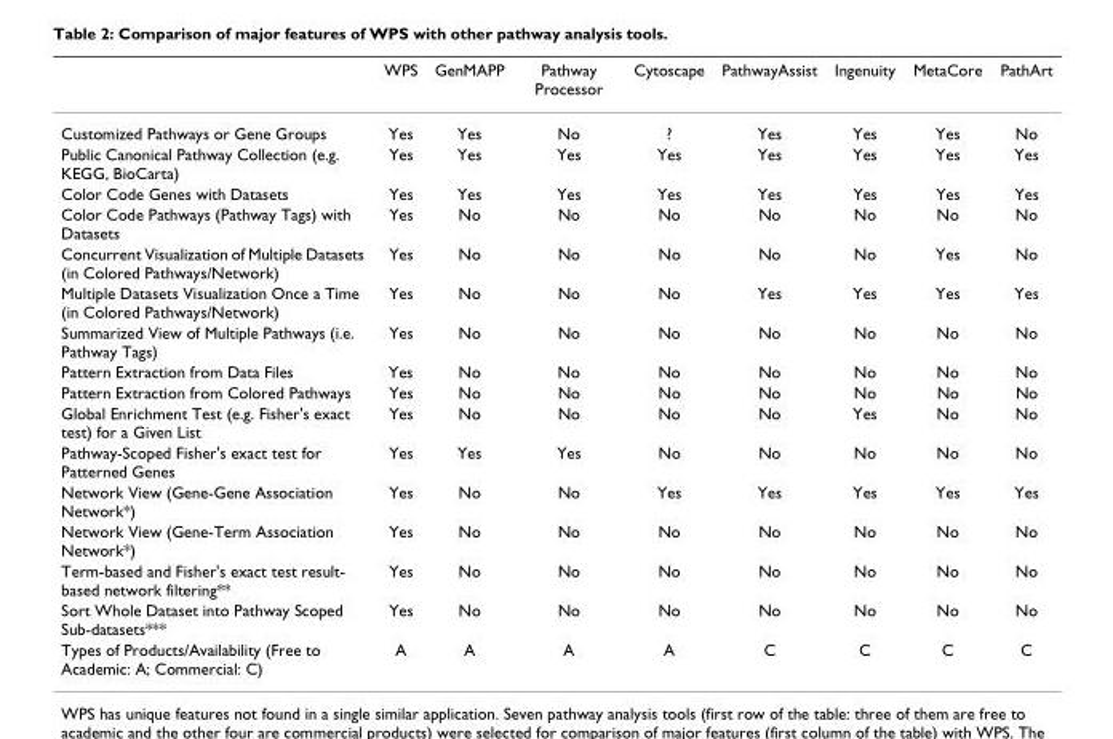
<table><thead><tr><td></td><td>WPS</td><td>GenMAPP</td><td>Pathway Processor</td><td>Cytoscape</td><td>PathwayAssist</td><td>Ingenuity</td><td>MetaCore</td><td>PathArt</td></tr></thead><tbody><tr><td>Customized Pathways or Gene Groups</td><td>Yes</td><td>Yes</td><td>No</td><td>?</td><td>Yes</td><td>Yes</td><td>Yes</td><td>No</td></tr><tr><td>Public Canonical Pathway Collection (e.g. KEGG, BioCarta)</td><td>Yes</td><td>Yes</td><td>Yes</td><td>Yes</td><td>Yes</td><td>Yes</td><td>Yes</td><td>Yes</td></tr><tr><td>Color Code Genes with Datasets</td><td>Yes</td><td>Yes</td><td>Yes</td><td>Yes</td><td>Yes</td><td>Yes</td><td>Yes</td><td>Yes</td></tr><tr><td>Color Code Pathways (Pathway Tags) with Datasets</td><td>Yes</td><td>No</td><td>No</td><td>No</td><td>No</td><td>No</td><td>No</td><td>No</td></tr><tr><td>Concurrent Visualization of Multiple Datasets (in Colored Pathways/Network)</td><td>Yes</td><td>No</td><td>No</td><td>No</td><td>No</td><td>No</td><td>Yes</td><td>No</td></tr><tr><td>Multiple Datasets Visualization Once a Time (in Colored Pathways/Network)</td><td>Yes</td><td>No</td><td>No</td><td>No</td><td>Yes</td><td>Yes</td><td>Yes</td><td>Yes</td></tr><tr><td>Summarized View of Multiple Pathways (i.e. Pathway Tags)</td><td>Yes</td><td>No</td><td>No</td><td>No</td><td>No</td><td>No</td><td>No</td><td>No</td></tr><tr><td>Pattern Extraction from Data Files</td><td>Yes</td><td>No</td><td>No</td><td>No</td><td>No</td><td>No</td><td>No</td><td>No</td></tr><tr><td>Pattern Extraction from Colored Pathways</td><td>Yes</td><td>No</td><td>No</td><td>No</td><td>No</td><td>No</td><td>No</td><td>No</td></tr><tr><td>Global Enrichment Test (e.g. Fisher&#x27;s exact test) for a Given List</td><td>Yes</td><td>No</td><td>No</td><td>No</td><td>No</td><td>Yes</td><td>No</td><td>No</td></tr><tr><td>Pathway-Scoped Fisher&#x27;s exact test for Patterned Genes</td><td>Yes</td><td>Yes</td><td>Yes</td><td>No</td><td>No</td><td>No</td><td>No</td><td>No</td></tr><tr><td>Network View (Gene-Gene Association Network*)</td><td>Yes</td><td>No</td><td>No</td><td>Yes</td><td>Yes</td><td>Yes</td><td>Yes</td><td>Yes</td></tr><tr><td>Network View (Gene-Term Association Network*)</td><td>Yes</td><td>No</td><td>No</td><td>No</td><td>No</td><td>No</td><td>No</td><td>No</td></tr><tr><td>Term-based and Fisher&#x27;s exact test result- based network filtering**</td><td>Yes</td><td>No</td><td>No</td><td>No</td><td>No</td><td>No</td><td>No</td><td>No</td></tr><tr><td>Sort Whole Dataset into Pathway Scoped Sub-datasets***</td><td>Yes</td><td>No</td><td>No</td><td>No</td><td>No</td><td>No</td><td>No</td><td>No</td></tr><tr><td>Types of Products/Availability (Free to Academic: A; Commercial: C)</td><td>A</td><td>A</td><td>A</td><td>A</td><td>C</td><td>C</td><td>C</td><td>C</td></tr></tbody></table>